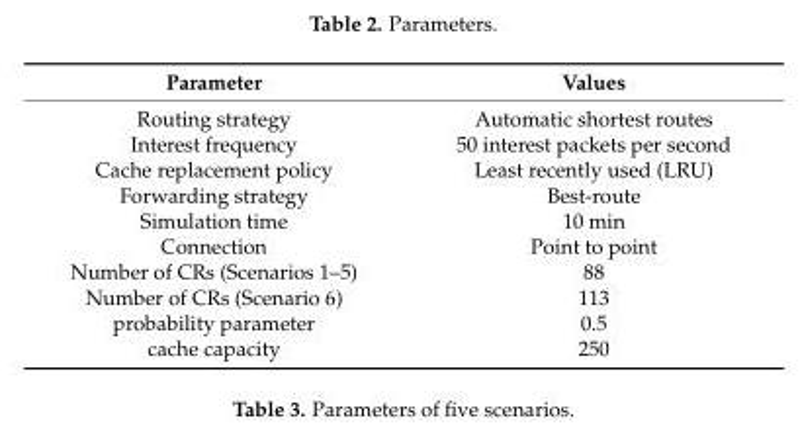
<table><thead><tr><td>Parameter</td><td>Values</td></tr></thead><tbody><tr><td>Routing strategy</td><td>Automatic shortest routes</td></tr><tr><td>Interest frequency</td><td>50 interest packets per second</td></tr><tr><td>Cache replacement policy</td><td>Least recently used (LRU)</td></tr><tr><td>Forwarding strategy</td><td>Best-route</td></tr><tr><td>Simulation time</td><td>10 min</td></tr><tr><td>Connection</td><td>Point to point</td></tr><tr><td>Number of CRs (Scenarios 1–5)</td><td>88</td></tr><tr><td>Number of CRs (Scenario 6)</td><td>113</td></tr><tr><td>probability parameter</td><td>0.5</td></tr><tr><td>cache capacity</td><td>250</td></tr></tbody></table>